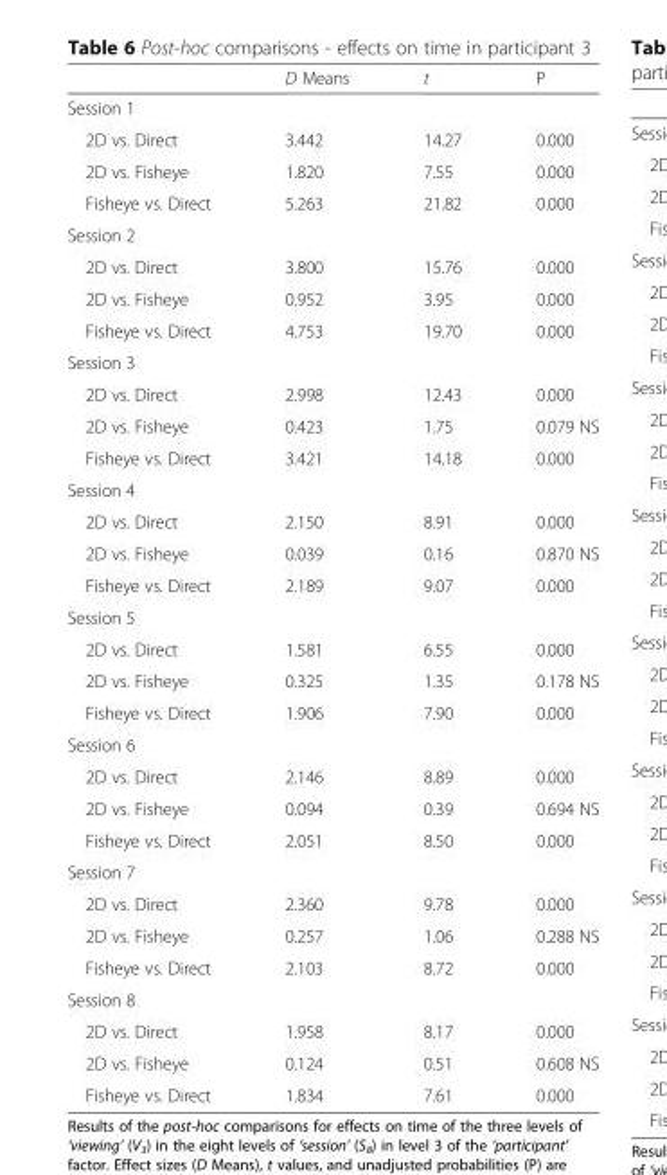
<table><thead><tr><td></td><td>D Means</td><td>t</td><td>P</td></tr></thead><tbody><tr><td colspan="4">Session 1</td></tr><tr><td>2D vs. Direct</td><td>3.442</td><td>14.27</td><td>0.000</td></tr><tr><td>2D vs. Fisheye</td><td>1.820</td><td>7.55</td><td>0.000</td></tr><tr><td>Fisheye vs. Direct</td><td>5.263</td><td>21.82</td><td>0.000</td></tr><tr><td colspan="4">Session 2</td></tr><tr><td>2D vs. Direct</td><td>3.800</td><td>15.76</td><td>0.000</td></tr><tr><td>2D vs. Fisheye</td><td>0.952</td><td>3.95</td><td>0.000</td></tr><tr><td>Fisheye vs. Direct</td><td>4.753</td><td>19.70</td><td>0.000</td></tr><tr><td colspan="4">Session 3</td></tr><tr><td>2D vs. Direct</td><td>2.998</td><td>12.43</td><td>0.000</td></tr><tr><td>2D vs. Fisheye</td><td>0.423</td><td>1.75</td><td>0.079 NS</td></tr><tr><td>Fisheye vs. Direct</td><td>3.421</td><td>14.18</td><td>0.000</td></tr><tr><td colspan="4">Session 4</td></tr><tr><td>2D vs. Direct</td><td>2.150</td><td>8.91</td><td>0.000</td></tr><tr><td>2D vs. Fisheye</td><td>0.039</td><td>0.16</td><td>0.870 NS</td></tr><tr><td>Fisheye vs. Direct</td><td>2.189</td><td>9.07</td><td>0.000</td></tr><tr><td colspan="4">Session 5</td></tr><tr><td>2D vs. Direct</td><td>1.581</td><td>6.55</td><td>0.000</td></tr><tr><td>2D vs. Fisheye</td><td>0.325</td><td>1.35</td><td>0.178 NS</td></tr><tr><td>Fisheye vs. Direct</td><td>1.906</td><td>7.90</td><td>0.000</td></tr><tr><td colspan="4">Session 6</td></tr><tr><td>2D vs. Direct</td><td>2.146</td><td>8.89</td><td>0.000</td></tr><tr><td>2D vs. Fisheye</td><td>0.094</td><td>0.39</td><td>0.694 NS</td></tr><tr><td>Fisheye vs. Direct</td><td>2.051</td><td>8.50</td><td>0.000</td></tr><tr><td colspan="4">Session 7</td></tr><tr><td>2D vs. Direct</td><td>2.360</td><td>9.78</td><td>0.000</td></tr><tr><td>2D vs. Fisheye</td><td>0.257</td><td>1.06</td><td>0.288 NS</td></tr><tr><td>Fisheye vs. Direct</td><td>2.103</td><td>8.72</td><td>0.000</td></tr><tr><td colspan="4">Session 8</td></tr><tr><td>2D vs. Direct</td><td>1.958</td><td>8.17</td><td>0.000</td></tr><tr><td>2D vs. Fisheye</td><td>0.124</td><td>0.51</td><td>0.608 NS</td></tr><tr><td>Fisheye vs. Direct</td><td>1.834</td><td>7.61</td><td>0.000</td></tr></tbody></table>